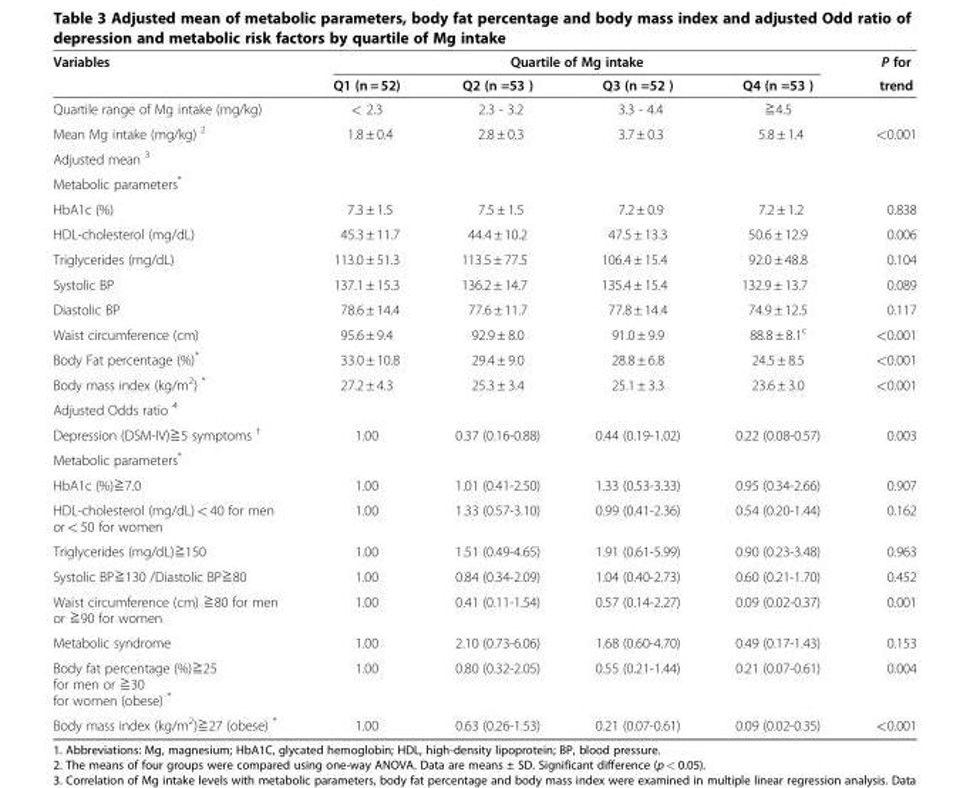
<table><thead><tr><td rowspan="2">Variables</td><td colspan="4">Quartile of Mg intake</td><td rowspan="2">P for trend</td></tr><tr><td>Q1 (n = 52)</td><td>Q2 (n =53 )</td><td>Q3 (n =52 )</td><td>Q4 (n =53 )</td></tr></thead><tbody><tr><td>Quartile range of Mg intake (mg/kg)</td><td>&lt; 2.3</td><td>2.3 - 3.2</td><td>3.3 - 4.4</td><td>≧4.5</td><td></td></tr><tr><td>Mean Mg intake (mg/kg) <sup>2</sup></td><td>1.8 ± 0.4</td><td>2.8 ± 0.3</td><td>3.7 ± 0.3</td><td>5.8 ± 1.4</td><td>&lt;0.001</td></tr><tr><td colspan="6">Adjusted mean <sup>3</sup></td></tr><tr><td colspan="6">Metabolic parameters*</td></tr><tr><td>HbA1c (%)</td><td>7.3 ± 1.5</td><td>7.5 ± 1.5</td><td>7.2 ± 0.9</td><td>7.2 ± 1.2</td><td>0.838</td></tr><tr><td>HDL-cholesterol (mg/dL)</td><td>45.3 ± 11.7</td><td>44.4 ± 10.2</td><td>47.5 ± 13.3</td><td>50.6 ± 12.9</td><td>0.006</td></tr><tr><td>Triglycerides (mg/dL)</td><td>113.0 ± 51.3</td><td>113.5 ± 77.5</td><td>106.4 ± 15.4</td><td>92.0 ± 48.8</td><td>0.104</td></tr><tr><td>Systolic BP</td><td>137.1 ± 15.3</td><td>136.2 ± 14.7</td><td>135.4 ± 15.4</td><td>132.9 ± 13.7</td><td>0.089</td></tr><tr><td>Diastolic BP</td><td>78.6 ± 14.4</td><td>77.6 ± 11.7</td><td>77.8 ± 14.4</td><td>74.9 ± 12.5</td><td>0.117</td></tr><tr><td>Waist circumference (cm)</td><td>95.6 ± 9.4</td><td>92.9 ± 8.0</td><td>91.0 ± 9.9</td><td>88.8 ± 8.1<sup>c</sup></td><td>&lt;0.001</td></tr><tr><td>Body Fat percentage (%)*</td><td>33.0 ± 10.8</td><td>29.4 ± 9.0</td><td>28.8 ± 6.8</td><td>24.5 ± 8.5</td><td>&lt;0.001</td></tr><tr><td>Body mass index (kg/m<sup>2</sup>) *</td><td>27.2 ± 4.3</td><td>25.3 ± 3.4</td><td>25.1 ± 3.3</td><td>23.6 ± 3.0</td><td>&lt;0.001</td></tr><tr><td colspan="6">Adjusted Odds ratio <sup>4</sup></td></tr><tr><td>Depression (DSM-IV)≧5 symptoms <sup>†</sup></td><td>1.00</td><td>0.37 (0.16-0.88)</td><td>0.44 (0.19-1.02)</td><td>0.22 (0.08-0.57)</td><td>0.003</td></tr><tr><td colspan="6">Metabolic parameters*</td></tr><tr><td>HbA1c (%)≧7.0</td><td>1.00</td><td>1.01 (0.41-2.50)</td><td>1.33 (0.53-3.33)</td><td>0.95 (0.34-2.66)</td><td>0.907</td></tr><tr><td>HDL-cholesterol (mg/dL) &lt; 40 for men or &lt; 50 for women</td><td>1.00</td><td>1.33 (0.57-3.10)</td><td>0.99 (0.41-2.36)</td><td>0.54 (0.20-1.44)</td><td>0.162</td></tr><tr><td>Triglycerides (mg/dL)≧150</td><td>1.00</td><td>1.51 (0.49-4.65)</td><td>1.91 (0.61-5.99)</td><td>0.90 (0.23-3.48)</td><td>0.963</td></tr><tr><td>Systolic BP≧130 /Diastolic BP≧80</td><td>1.00</td><td>0.84 (0.34-2.09)</td><td>1.04 (0.40-2.73)</td><td>0.60 (0.21-1.70)</td><td>0.452</td></tr><tr><td>Waist circumference (cm) ≧80 for men or ≧90 for women</td><td>1.00</td><td>0.41 (0.11-1.54)</td><td>0.57 (0.14-2.27)</td><td>0.09 (0.02-0.37)</td><td>0.001</td></tr><tr><td>Metabolic syndrome</td><td>1.00</td><td>2.10 (0.73-6.06)</td><td>1.68 (0.60-4.70)</td><td>0.49 (0.17-1.43)</td><td>0.153</td></tr><tr><td>Body fat percentage (%)≧25 for men or ≧30 for women (obese) *</td><td>1.00</td><td>0.80 (0.32-2.05)</td><td>0.55 (0.21-1.44)</td><td>0.21 (0.07-0.61)</td><td>0.004</td></tr><tr><td>Body mass index (kg/m<sup>2</sup>)≧27 (obese) *</td><td>1.00</td><td>0.63 (0.26-1.53)</td><td>0.21 (0.07-0.61)</td><td>0.09 (0.02-0.35)</td><td>&lt;0.001</td></tr></tbody></table>